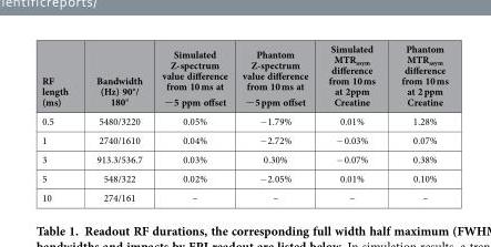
<table><thead><tr><td>RF length (ms)</td><td>Bandwidth (Hz) 90°/ 180°</td><td>Simulated Z-spectrum value difference from 10 ms at −5 ppm offset</td><td>Phantom Z-spectrum value difference from 10 ms at −5 ppm offset</td><td>Simulated MTR<sub>asym</sub> difference from 10 ms at 2ppm Creatine</td><td>Phantom MTR<sub>asym</sub> difference from 10 ms at 2 ppm Creatine</td></tr></thead><tbody><tr><td>0.5</td><td>5480/3220</td><td>0.05%</td><td>− 1.79%</td><td>0.01%</td><td>1.28%</td></tr><tr><td>1</td><td>2740/1610</td><td>0.04%</td><td>− 2.72%</td><td>− 0.03%</td><td>0.07%</td></tr><tr><td>3</td><td>913.3/536.7</td><td>0.03%</td><td>0.30%</td><td>− 0.07%</td><td>0.38%</td></tr><tr><td>5</td><td>548/322</td><td>0.02%</td><td>− 2.05%</td><td>0.01%</td><td>0.10%</td></tr><tr><td>10</td><td>274/161</td><td>–</td><td>–</td><td>–</td><td>–</td></tr></tbody></table>